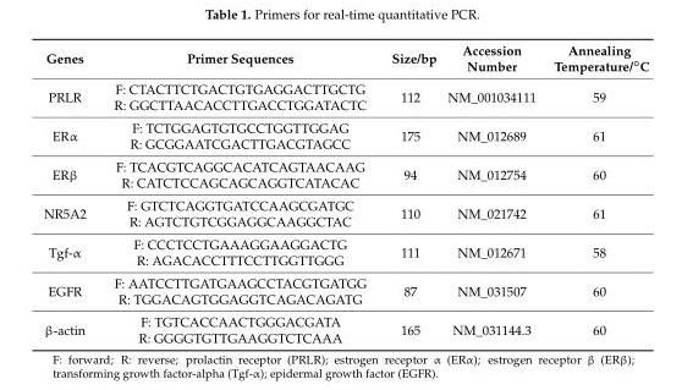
<table><thead><tr><td>Genes</td><td>Primer Sequences</td><td>Size/bp</td><td>Accession Number</td><td>Annealing Temperature/◦C</td></tr></thead><tbody><tr><td>PRLR</td><td>F: CTACTTCTGACTGTGAGGACTTGCTG R: GGCTTAACACCTTGACCTGGATACTC</td><td>112</td><td>NM_001034111</td><td>59</td></tr><tr><td>ERα</td><td>F: TCTGGAGTGTGCCTGGTTGGAG R: GCGGAATCGACTTGACGTAGCC</td><td>175</td><td>NM_012689</td><td>61</td></tr><tr><td>ERβ</td><td>F: TCACGTCAGGCACATCAGTAACAAG R: CATCTCCAGCAGCAGGTCATACAC</td><td>94</td><td>NM_012754</td><td>60</td></tr><tr><td>NR5A2</td><td>F: GTCTCAGGTGATCCAAGCGATGC R: AGTCTGTCGGAGGCAAGGCTAC</td><td>110</td><td>NM_021742</td><td>61</td></tr><tr><td>Tgf-α</td><td>F: CCCTCCTGAAAGGAAGGACTG R: AGACACCTTTCCTTGGTTGGG</td><td>111</td><td>NM_012671</td><td>58</td></tr><tr><td>EGFR</td><td>F: AATCCTTGATGAAGCCTACGTGATGG R: TGGACAGTGGAGGTCAGACAGATG</td><td>87</td><td>NM_031507</td><td>60</td></tr><tr><td>β-actin</td><td>F: TGTCACCAACTGGGACGATA R: GGGGTGTTGAAGGTCTCAAA</td><td>165</td><td>NM_031144.3</td><td>60</td></tr></tbody></table>